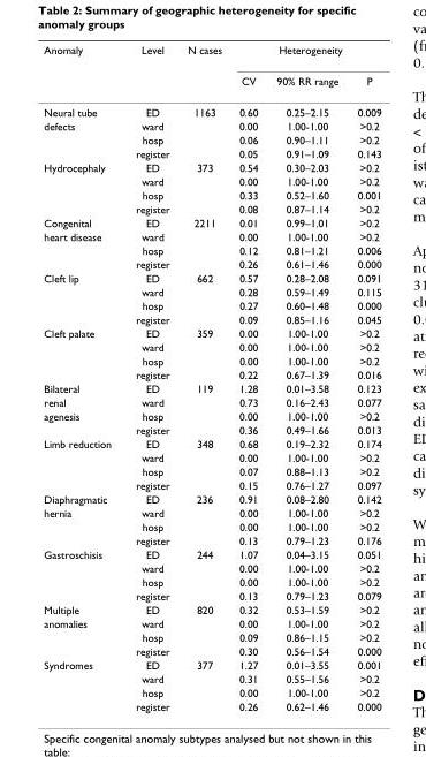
<table><thead><tr><td rowspan="2">Anomaly</td><td rowspan="2">Level</td><td rowspan="2">N cases</td><td colspan="3">Heterogeneity</td></tr><tr><td>CV</td><td>90% RR range</td><td>P</td></tr></thead><tbody><tr><td>Neural tube</td><td>ED</td><td>1163</td><td>0.60</td><td>0.25–2.15</td><td>0.009</td></tr><tr><td rowspan="3">defects</td><td>ward</td><td></td><td>0.00</td><td>1.00-1.00</td><td>&gt;0.2</td></tr><tr><td>hosp</td><td></td><td>0.06</td><td>0.90–1.11</td><td>&gt;0.2</td></tr><tr><td>register</td><td></td><td>0.05</td><td>0.91–1.09</td><td>0.143</td></tr><tr><td rowspan="4">Hydrocephaly</td><td>ED</td><td>373</td><td>0.54</td><td>0.30–2.03</td><td>&gt;0.2</td></tr><tr><td>ward</td><td></td><td>0.00</td><td>1.00-1.00</td><td>&gt;0.2</td></tr><tr><td>hosp</td><td></td><td>0.33</td><td>0.52–1.60</td><td>0.001</td></tr><tr><td>register</td><td></td><td>0.08</td><td>0.87–1.14</td><td>&gt;0.2</td></tr><tr><td>Congenital</td><td>ED</td><td>2211</td><td>0.01</td><td>0.99–1.01</td><td>&gt;0.2</td></tr><tr><td rowspan="3">heart disease</td><td>ward</td><td></td><td>0.00</td><td>1.00-1.00</td><td>&gt;0.2</td></tr><tr><td>hosp</td><td></td><td>0.12</td><td>0.81–1.21</td><td>0.006</td></tr><tr><td>register</td><td></td><td>0.26</td><td>0.61–1.46</td><td>0.000</td></tr><tr><td rowspan="4">Cleft lip</td><td>ED</td><td>662</td><td>0.57</td><td>0.28–2.08</td><td>0.091</td></tr><tr><td>ward</td><td></td><td>0.28</td><td>0.59–1.49</td><td>0.115</td></tr><tr><td>hosp</td><td></td><td>0.27</td><td>0.60–1.48</td><td>0.000</td></tr><tr><td>register</td><td></td><td>0.09</td><td>0.85–1.16</td><td>0.045</td></tr><tr><td rowspan="4">Cleft palate</td><td>ED</td><td>359</td><td>0.00</td><td>1.00-1.00</td><td>&gt;0.2</td></tr><tr><td>ward</td><td></td><td>0.00</td><td>1.00-1.00</td><td>&gt;0.2</td></tr><tr><td>hosp</td><td></td><td>0.00</td><td>1.00-1.00</td><td>&gt;0.2</td></tr><tr><td>register</td><td></td><td>0.22</td><td>0.67–1.39</td><td>0.016</td></tr><tr><td>Bilateral</td><td>ED</td><td>119</td><td>1.28</td><td>0.01–3.58</td><td>0.123</td></tr><tr><td>renal</td><td>ward</td><td></td><td>0.73</td><td>0.16–2.43</td><td>0.077</td></tr><tr><td rowspan="2">agenesis</td><td>hosp</td><td></td><td>0.00</td><td>1.00-1.00</td><td>&gt;0.2</td></tr><tr><td>register</td><td></td><td>0.36</td><td>0.49–1.66</td><td>0.013</td></tr><tr><td rowspan="4">Limb reduction</td><td>ED</td><td>348</td><td>0.68</td><td>0.19–2.32</td><td>0.174</td></tr><tr><td>ward</td><td></td><td>0.00</td><td>1.00-1.00</td><td>&gt;0.2</td></tr><tr><td>hosp</td><td></td><td>0.07</td><td>0.88–1.13</td><td>&gt;0.2</td></tr><tr><td>register</td><td></td><td>0.15</td><td>0.76–1.27</td><td>0.097</td></tr><tr><td>Diaphragmatic</td><td>ED</td><td>236</td><td>0.91</td><td>0.08–2.80</td><td>0.142</td></tr><tr><td rowspan="3">hernia</td><td>ward</td><td></td><td>0.00</td><td>1.00-1.00</td><td>&gt;0.2</td></tr><tr><td>hosp</td><td></td><td>0.00</td><td>1.00-1.00</td><td>&gt;0.2</td></tr><tr><td>register</td><td></td><td>0.13</td><td>0.79–1.23</td><td>0.176</td></tr><tr><td rowspan="4">Gastroschisis</td><td>ED</td><td>244</td><td>1.07</td><td>0.04–3.15</td><td>0.051</td></tr><tr><td>ward</td><td></td><td>0.00</td><td>1.00-1.00</td><td>&gt;0.2</td></tr><tr><td>hosp</td><td></td><td>0.00</td><td>1.00-1.00</td><td>&gt;0.2</td></tr><tr><td>register</td><td></td><td>0.13</td><td>0.79–1.23</td><td>0.079</td></tr><tr><td>Multiple</td><td>ED</td><td>820</td><td>0.32</td><td>0.53–1.59</td><td>&gt;0.2</td></tr><tr><td rowspan="3">anomalies</td><td>ward</td><td></td><td>0.00</td><td>1.00-1.00</td><td>&gt;0.2</td></tr><tr><td>hosp</td><td></td><td>0.09</td><td>0.86–1.15</td><td>&gt;0.2</td></tr><tr><td>register</td><td></td><td>0.30</td><td>0.56–1.54</td><td>0.000</td></tr><tr><td rowspan="4">Syndromes</td><td>ED</td><td>377</td><td>1.27</td><td>0.01–3.55</td><td>0.001</td></tr><tr><td>ward</td><td></td><td>0.31</td><td>0.55–1.56</td><td>&gt;0.2</td></tr><tr><td>hosp</td><td></td><td>0.00</td><td>1.00-1.00</td><td>&gt;0.2</td></tr><tr><td>register</td><td></td><td>0.26</td><td>0.62–1.46</td><td>0.000</td></tr></tbody></table>